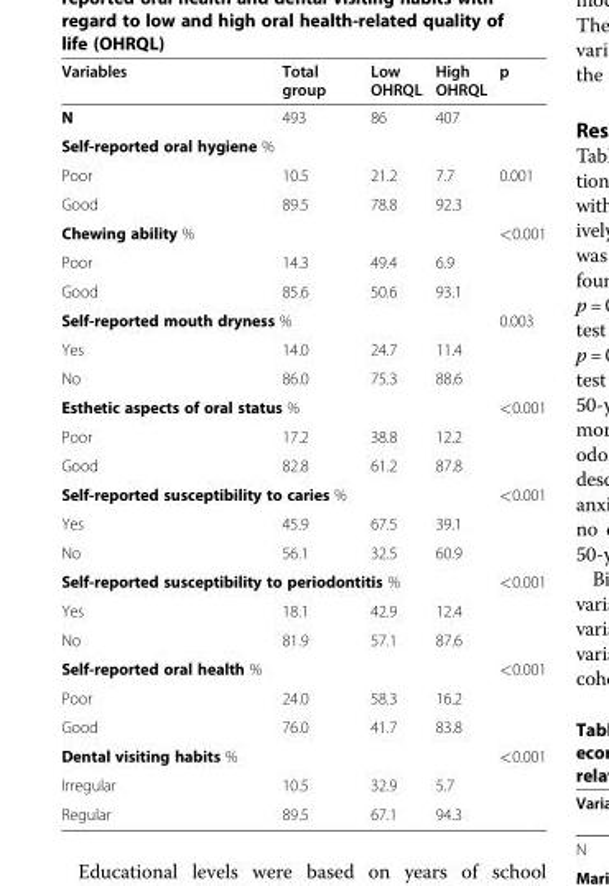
<table><thead><tr><td>Variables</td><td>Total group</td><td>Low OHRQL</td><td>High OHRQL</td><td>p</td></tr></thead><tbody><tr><td>N</td><td>493</td><td>86</td><td>407</td><td></td></tr><tr><td colspan="5">Self-reported oral hygiene %</td></tr><tr><td>Poor</td><td>10.5</td><td>21.2</td><td>7.7</td><td>0.001</td></tr><tr><td>Good</td><td>89.5</td><td>78.8</td><td>92.3</td><td></td></tr><tr><td>Chewing ability %</td><td></td><td></td><td></td><td>&lt;0.001</td></tr><tr><td>Poor</td><td>14.3</td><td>49.4</td><td>6.9</td><td></td></tr><tr><td>Good</td><td>85.6</td><td>50.6</td><td>93.1</td><td></td></tr><tr><td colspan="2">Self-reported mouth dryness %</td><td></td><td></td><td>0.003</td></tr><tr><td>Yes</td><td>14.0</td><td>24.7</td><td>11.4</td><td></td></tr><tr><td>No</td><td>86.0</td><td>75.3</td><td>88.6</td><td></td></tr><tr><td colspan="2">Esthetic aspects of oral status %</td><td></td><td></td><td>&lt;0.001</td></tr><tr><td>Poor</td><td>17.2</td><td>38.8</td><td>12.2</td><td></td></tr><tr><td>Good</td><td>82.8</td><td>61.2</td><td>87.8</td><td></td></tr><tr><td colspan="2">Self-reported susceptibility to caries %</td><td></td><td></td><td>&lt;0.001</td></tr><tr><td>Yes</td><td>45.9</td><td>67.5</td><td>39.1</td><td></td></tr><tr><td>No</td><td>56.1</td><td>32.5</td><td>60.9</td><td></td></tr><tr><td colspan="3">Self-reported susceptibility to periodontitis %</td><td></td><td>&lt;0.001</td></tr><tr><td>Yes</td><td>18.1</td><td>42.9</td><td>12.4</td><td></td></tr><tr><td>No</td><td>81.9</td><td>57.1</td><td>87.6</td><td></td></tr><tr><td colspan="2">Self-reported oral health %</td><td></td><td></td><td>&lt;0.001</td></tr><tr><td>Poor</td><td>24.0</td><td>58.3</td><td>16.2</td><td></td></tr><tr><td>Good</td><td>76.0</td><td>41.7</td><td>83.8</td><td></td></tr><tr><td>Dental visiting habits %</td><td></td><td></td><td></td><td>&lt;0.001</td></tr><tr><td>Irregular</td><td>10.5</td><td>32.9</td><td>5.7</td><td></td></tr><tr><td>Regular</td><td>89.5</td><td>67.1</td><td>94.3</td><td></td></tr></tbody></table>